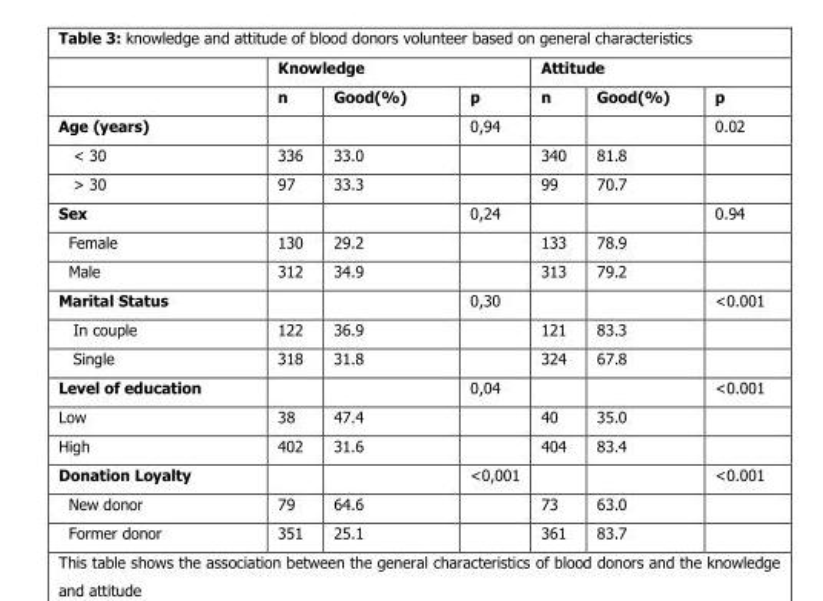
<table><thead><tr><td rowspan="2"></td><td colspan="3">Knowledge</td><td colspan="3">Attitude</td></tr><tr><td>n</td><td>Good(%)</td><td>p</td><td>n</td><td>Good(%)</td><td>p</td></tr></thead><tbody><tr><td>Age (years)</td><td></td><td></td><td>0,94</td><td></td><td></td><td>0.02</td></tr><tr><td>&lt; 30</td><td>336</td><td>33.0</td><td></td><td>340</td><td>81.8</td><td></td></tr><tr><td>&gt; 30</td><td>97</td><td>33.3</td><td></td><td>99</td><td>70.7</td><td></td></tr><tr><td>Sex</td><td></td><td></td><td>0,24</td><td></td><td></td><td>0.94</td></tr><tr><td>Female</td><td>130</td><td>29.2</td><td></td><td>133</td><td>78.9</td><td></td></tr><tr><td>Male</td><td>312</td><td>34.9</td><td></td><td>313</td><td>79.2</td><td></td></tr><tr><td>Marital Status</td><td></td><td></td><td>0,30</td><td></td><td></td><td>&lt;0.001</td></tr><tr><td>In couple</td><td>122</td><td>36.9</td><td></td><td>121</td><td>83.3</td><td></td></tr><tr><td>Single</td><td>318</td><td>31.8</td><td></td><td>324</td><td>67.8</td><td></td></tr><tr><td>Level of education</td><td></td><td></td><td>0,04</td><td></td><td></td><td>&lt;0.001</td></tr><tr><td>Low</td><td>38</td><td>47.4</td><td></td><td>40</td><td>35.0</td><td></td></tr><tr><td>High</td><td>402</td><td>31.6</td><td></td><td>404</td><td>83.4</td><td></td></tr><tr><td>Donation Loyalty</td><td></td><td></td><td>&lt;0,001</td><td></td><td></td><td>&lt;0.001</td></tr><tr><td>New donor</td><td>79</td><td>64.6</td><td></td><td>73</td><td>63.0</td><td></td></tr><tr><td>Former donor</td><td>351</td><td>25.1</td><td></td><td>361</td><td>83.7</td><td></td></tr></tbody></table>